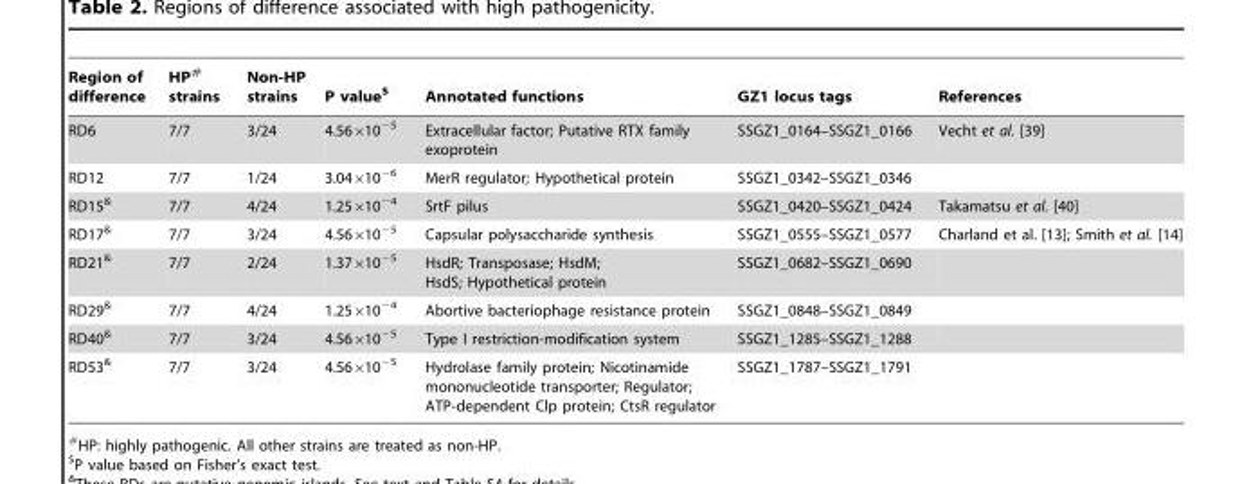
<table><thead><tr><td>Region of difference</td><td>HP# strains</td><td>Non-HP strains</td><td>P value$</td><td>Annotated functions</td><td>GZ1 locus tags</td><td>References</td></tr></thead><tbody><tr><td>RD6</td><td>7/7</td><td>3/24</td><td>4.56×10<sup>−5</sup></td><td>Extracellular factor; Putative RTX family exoprotein</td><td>SSGZ1_0164–SSGZ1_0166</td><td>Vecht et al. [39]</td></tr><tr><td>RD12</td><td>7/7</td><td>1/24</td><td>3.04×10<sup>−6</sup></td><td>MerR regulator; Hypothetical protein</td><td>SSGZ1_0342–SSGZ1_0346</td><td></td></tr><tr><td>RD15&amp;</td><td>7/7</td><td>4/24</td><td>1.25×10<sup>−4</sup></td><td>SrtF pilus</td><td>SSGZ1_0420–SSGZ1_0424</td><td>Takamatsu et al. [40]</td></tr><tr><td>RD17&amp;</td><td>7/7</td><td>3/24</td><td>4.56×10<sup>−5</sup></td><td>Capsular polysaccharide synthesis</td><td>SSGZ1_0555–SSGZ1_0577</td><td>Charland et al. [13]; Smith et al. [14]</td></tr><tr><td>RD21&amp;</td><td>7/7</td><td>2/24</td><td>1.37×10<sup>−5</sup></td><td>HsdR; Transposase; HsdM; HsdS; Hypothetical protein</td><td>SSGZ1_0682–SSGZ1_0690</td><td></td></tr><tr><td>RD29&amp;</td><td>7/7</td><td>4/24</td><td>1.25×10<sup>−4</sup></td><td>Abortive bacteriophage resistance protein</td><td>SSGZ1_0848–SSGZ1_0849</td><td></td></tr><tr><td>RD40&amp;</td><td>7/7</td><td>3/24</td><td>4.56×10<sup>−5</sup></td><td>Type I restriction-modification system</td><td>SSGZ1_1285–SSGZ1_1288</td><td></td></tr><tr><td>RD53&amp;</td><td>7/7</td><td>3/24</td><td>4.56×10<sup>−5</sup></td><td>Hydrolase family protein; Nicotinamide mononucleotide transporter; Regulator; ATP-dependent Clp protein; CtsR regulator</td><td>SSGZ1_1787–SSGZ1_1791</td><td></td></tr></tbody></table>